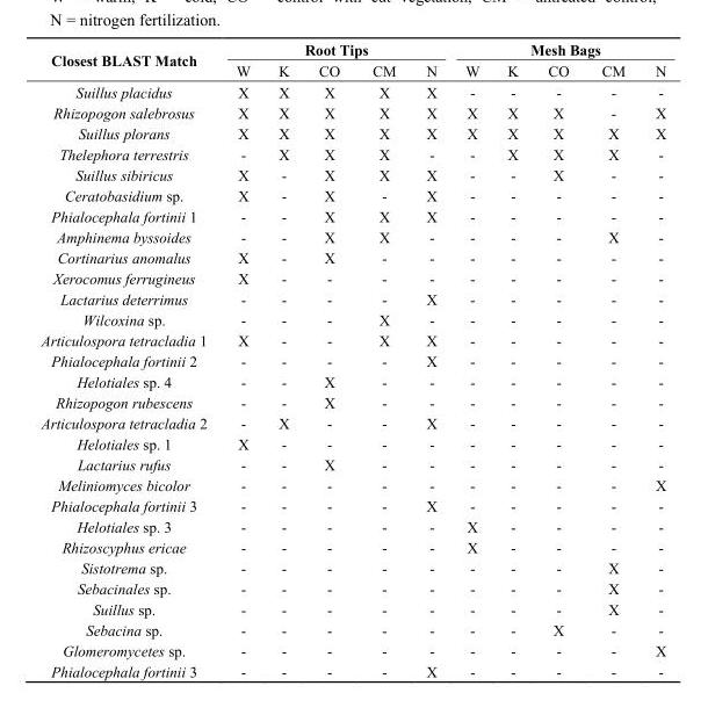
<table><thead><tr><td rowspan="2">Closest BLAST Match</td><td colspan="5">Root Tips</td><td colspan="5">Mesh Bags</td></tr><tr><td>W</td><td>K</td><td>CO</td><td>CM</td><td>N</td><td>W</td><td>K</td><td>CO</td><td>CM</td><td>N</td></tr></thead><tbody><tr><td>Suillus placidus</td><td>X</td><td>X</td><td>X</td><td>X</td><td>X</td><td>-</td><td>-</td><td>-</td><td>-</td><td>-</td></tr><tr><td>Rhizopogon salebrosus</td><td>X</td><td>X</td><td>X</td><td>X</td><td>X</td><td>X</td><td>X</td><td>X</td><td>-</td><td>X</td></tr><tr><td>Suillus plorans</td><td>X</td><td>X</td><td>X</td><td>X</td><td>X</td><td>X</td><td>X</td><td>X</td><td>X</td><td>X</td></tr><tr><td>Thelephora terrestris</td><td>-</td><td>X</td><td>X</td><td>X</td><td>-</td><td>-</td><td>X</td><td>X</td><td>X</td><td>-</td></tr><tr><td>Suillus sibiricus</td><td>X</td><td>-</td><td>X</td><td>X</td><td>X</td><td>-</td><td>-</td><td>X</td><td>-</td><td>-</td></tr><tr><td>Ceratobasidium sp.</td><td>X</td><td>-</td><td>X</td><td>-</td><td>X</td><td>-</td><td>-</td><td>-</td><td>-</td><td>-</td></tr><tr><td>Phialocephala fortinii 1</td><td>-</td><td>-</td><td>X</td><td>X</td><td>X</td><td>-</td><td>-</td><td>-</td><td>-</td><td>-</td></tr><tr><td>Amphinema byssoides</td><td>-</td><td>-</td><td>X</td><td>X</td><td>-</td><td>-</td><td>-</td><td>-</td><td>X</td><td>-</td></tr><tr><td>Cortinarius anomalus</td><td>X</td><td>-</td><td>X</td><td>-</td><td>-</td><td>-</td><td>-</td><td>-</td><td>-</td><td>-</td></tr><tr><td>Xerocomus ferrugineus</td><td>X</td><td>-</td><td>-</td><td>-</td><td>-</td><td>-</td><td>-</td><td>-</td><td>-</td><td>-</td></tr><tr><td>Lactarius deterrimus</td><td>-</td><td>-</td><td>-</td><td>-</td><td>X</td><td>-</td><td>-</td><td>-</td><td>-</td><td>-</td></tr><tr><td>Wilcoxina sp.</td><td>-</td><td>-</td><td>-</td><td>X</td><td>-</td><td>-</td><td>-</td><td>-</td><td>-</td><td>-</td></tr><tr><td>Articulospora tetracladia 1</td><td>X</td><td>-</td><td>-</td><td>X</td><td>X</td><td>-</td><td>-</td><td>-</td><td>-</td><td>-</td></tr><tr><td>Phialocephala fortinii 2</td><td>-</td><td>-</td><td>-</td><td>-</td><td>X</td><td>-</td><td>-</td><td>-</td><td>-</td><td>-</td></tr><tr><td>Helotiales sp. 4</td><td>-</td><td>-</td><td>X</td><td>-</td><td>-</td><td>-</td><td>-</td><td>-</td><td>-</td><td>-</td></tr><tr><td>Rhizopogon rubescens</td><td>-</td><td>-</td><td>X</td><td>-</td><td>-</td><td>-</td><td>-</td><td>-</td><td>-</td><td>-</td></tr><tr><td>Articulospora tetracladia 2</td><td>-</td><td>X</td><td>-</td><td>-</td><td>X</td><td>-</td><td>-</td><td>-</td><td>-</td><td>-</td></tr><tr><td>Helotiales sp. 1</td><td>X</td><td>-</td><td>-</td><td>-</td><td>-</td><td>-</td><td>-</td><td>-</td><td>-</td><td>-</td></tr><tr><td>Lactarius rufus</td><td>-</td><td>-</td><td>X</td><td>-</td><td>-</td><td>-</td><td>-</td><td>-</td><td>-</td><td>-</td></tr><tr><td>Meliniomyces bicolor</td><td>-</td><td>-</td><td>-</td><td>-</td><td>-</td><td>-</td><td>-</td><td>-</td><td>-</td><td>X</td></tr><tr><td>Phialocephala fortinii 3</td><td>-</td><td>-</td><td>-</td><td>-</td><td>X</td><td>-</td><td>-</td><td>-</td><td>-</td><td>-</td></tr><tr><td>Helotiales sp. 3</td><td>-</td><td>-</td><td>-</td><td>-</td><td>-</td><td>X</td><td>-</td><td>-</td><td>-</td><td>-</td></tr><tr><td>Rhizoscyphus ericae</td><td>-</td><td>-</td><td>-</td><td>-</td><td>-</td><td>X</td><td>-</td><td>-</td><td>-</td><td>-</td></tr><tr><td>Sistotrema sp.</td><td>-</td><td>-</td><td>-</td><td>-</td><td>-</td><td>-</td><td>-</td><td>-</td><td>X</td><td>-</td></tr><tr><td>Sebacinales sp.</td><td>-</td><td>-</td><td>-</td><td>-</td><td>-</td><td>-</td><td>-</td><td>-</td><td>X</td><td>-</td></tr><tr><td>Suillus sp.</td><td>-</td><td>-</td><td>-</td><td>-</td><td>-</td><td>-</td><td>-</td><td>-</td><td>X</td><td>-</td></tr><tr><td>Sebacina sp.</td><td>-</td><td>-</td><td>-</td><td>-</td><td>-</td><td>-</td><td>-</td><td>X</td><td>-</td><td>-</td></tr><tr><td>Glomeromycetes sp.</td><td>-</td><td>-</td><td>-</td><td>-</td><td>-</td><td>-</td><td>-</td><td>-</td><td>-</td><td>X</td></tr><tr><td>Phialocephala fortinii 3</td><td>-</td><td>-</td><td>-</td><td>-</td><td>X</td><td>-</td><td>-</td><td>-</td><td>-</td><td>-</td></tr></tbody></table>